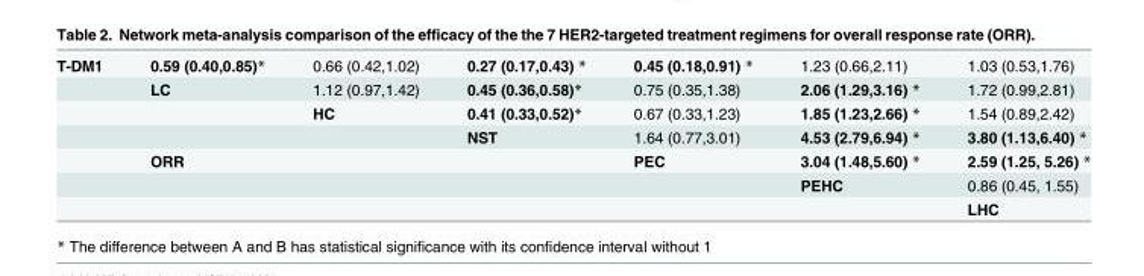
<table><tbody><tr><td rowspan="7">T-DM1</td><td>0.59 (0.40,0.85)*</td><td>0.66 (0.42,1.02)</td><td>0.27 (0.17,0.43) *</td><td>0.45 (0.18,0.91) *</td><td>1.23 (0.66,2.11)</td><td>1.03 (0.53,1.76)</td></tr><tr><td>LC</td><td>1.12 (0.97,1.42)</td><td>0.45 (0.36,0.58)*</td><td>0.75 (0.35,1.38)</td><td>2.06 (1.29,3.16) *</td><td>1.72 (0.99,2.81)</td></tr><tr><td></td><td>HC</td><td>0.41 (0.33,0.52)*</td><td>0.67 (0.33,1.23)</td><td>1.85 (1.23,2.66) *</td><td>1.54 (0.89,2.42)</td></tr><tr><td></td><td></td><td>NST</td><td>1.64 (0.77,3.01)</td><td>4.53 (2.79,6.94) *</td><td>3.80 (1.13,6.40) *</td></tr><tr><td>ORR</td><td></td><td></td><td>PEC</td><td>3.04 (1.48,5.60) *</td><td>2.59 (1.25, 5.26)</td></tr><tr><td></td><td></td><td></td><td></td><td>PEHC</td><td>0.86 (0.45, 1.55)</td></tr><tr><td></td><td></td><td></td><td></td><td></td><td>LHC</td></tr></tbody></table>